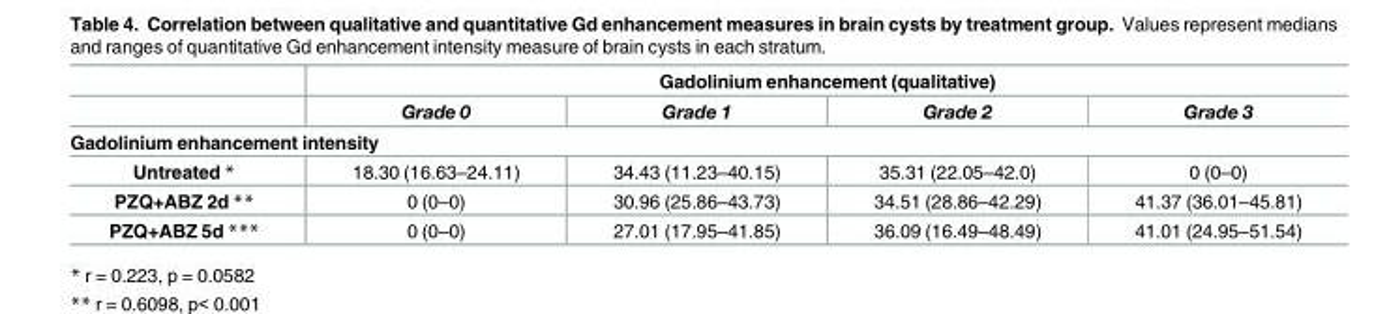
<table><thead><tr><td rowspan="2"></td><td colspan="4">Gadolinium enhancement (qualitative)</td></tr><tr><td>Grade 0</td><td>Grade 1</td><td>Grade 2</td><td>Grade 3</td></tr></thead><tbody><tr><td colspan="5">Gadolinium enhancement intensity</td></tr><tr><td>Untreated *</td><td>18.30 (16.63–24.11)</td><td>34.43 (11.23–40.15)</td><td>35.31 (22.05–42.0)</td><td>0 (0–0)</td></tr><tr><td>PZQ+ABZ 2d **</td><td>0 (0–0)</td><td>30.96 (25.86–43.73)</td><td>34.51 (28.86–42.29)</td><td>41.37 (36.01–45.81)</td></tr><tr><td>PZQ+ABZ 5d ***</td><td>0 (0–0)</td><td>27.01 (17.95–41.85)</td><td>36.09 (16.49–48.49)</td><td>41.01 (24.95–51.54)</td></tr></tbody></table>